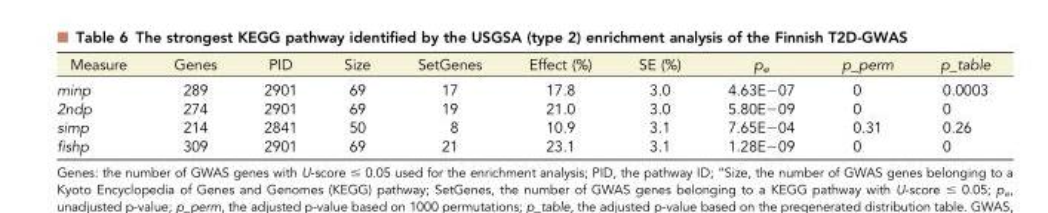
<table><thead><tr><td>Measure</td><td>Genes</td><td>PID</td><td>Size</td><td>SetGenes</td><td>Effect (%)</td><td>SE (%)</td><td>p<sub>e</sub></td><td>p_perm</td><td>p_table</td></tr></thead><tbody><tr><td>minp</td><td>289</td><td>2901</td><td>69</td><td>17</td><td>17.8</td><td>3.0</td><td>4.63E−07</td><td>0</td><td>0.0003</td></tr><tr><td>2ndp</td><td>274</td><td>2901</td><td>69</td><td>19</td><td>21.0</td><td>3.0</td><td>5.80E−09</td><td>0</td><td>0</td></tr><tr><td>simp</td><td>214</td><td>2841</td><td>50</td><td>8</td><td>10.9</td><td>3.1</td><td>7.65E−04</td><td>0.31</td><td>0.26</td></tr><tr><td>fishp</td><td>309</td><td>2901</td><td>69</td><td>21</td><td>23.1</td><td>3.1</td><td>1.28E−09</td><td>0</td><td>0</td></tr></tbody></table>